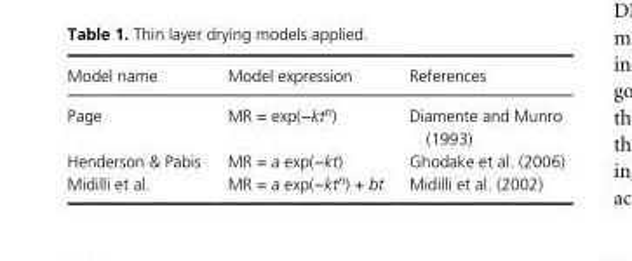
<table><thead><tr><td>Model name</td><td>Model expression</td><td>References</td></tr></thead><tbody><tr><td>Page</td><td>MR = exp(−kt<sup>n</sup>)</td><td>Diamente and Munro (1993)</td></tr><tr><td>Henderson &amp; Pabis</td><td>MR = a exp(−kt)</td><td>Ghodake et al. (2006)</td></tr><tr><td>Midilli et al.</td><td>MR = a exp(−kt<sup>n</sup>) + bt</td><td>Midilli et al. (2002)</td></tr></tbody></table>